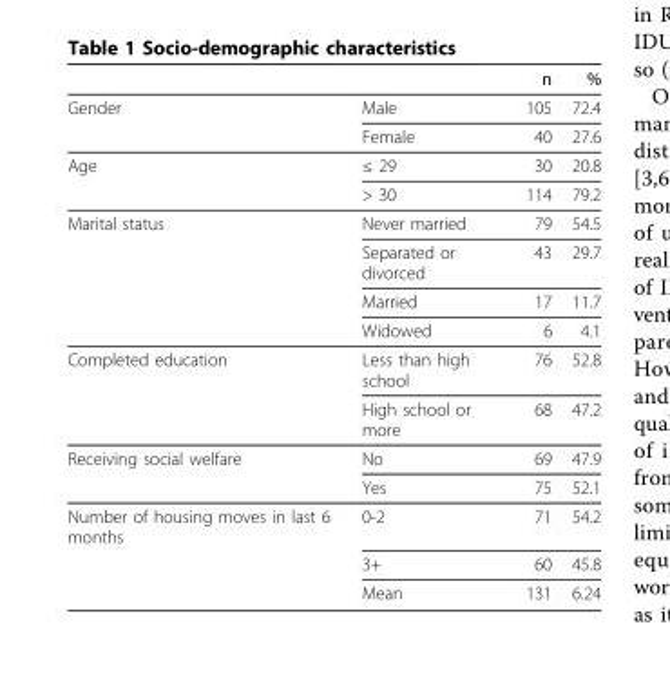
<table><thead><tr><td></td><td></td><td>n</td><td>%</td></tr></thead><tbody><tr><td rowspan="2">Gender</td><td>Male</td><td>105</td><td>72.4</td></tr><tr><td>Female</td><td>40</td><td>27.6</td></tr><tr><td rowspan="2">Age</td><td>≤ 29</td><td>30</td><td>20.8</td></tr><tr><td>&gt; 30</td><td>114</td><td>79.2</td></tr><tr><td rowspan="4">Marital status</td><td>Never married</td><td>79</td><td>54.5</td></tr><tr><td>Separated or divorced</td><td>43</td><td>29.7</td></tr><tr><td>Married</td><td>17</td><td>11.7</td></tr><tr><td>Widowed</td><td>6</td><td>4.1</td></tr><tr><td rowspan="2">Completed education</td><td>Less than high school</td><td>76</td><td>52.8</td></tr><tr><td>High school or more</td><td>68</td><td>47.2</td></tr><tr><td rowspan="2">Receiving social welfare</td><td>No</td><td>69</td><td>47.9</td></tr><tr><td>Yes</td><td>75</td><td>52.1</td></tr><tr><td rowspan="3">Number of housing moves in last 6 months</td><td>0-2</td><td>71</td><td>54.2</td></tr><tr><td>3+</td><td>60</td><td>45.8</td></tr><tr><td>Mean</td><td>131</td><td>6.24</td></tr></tbody></table>